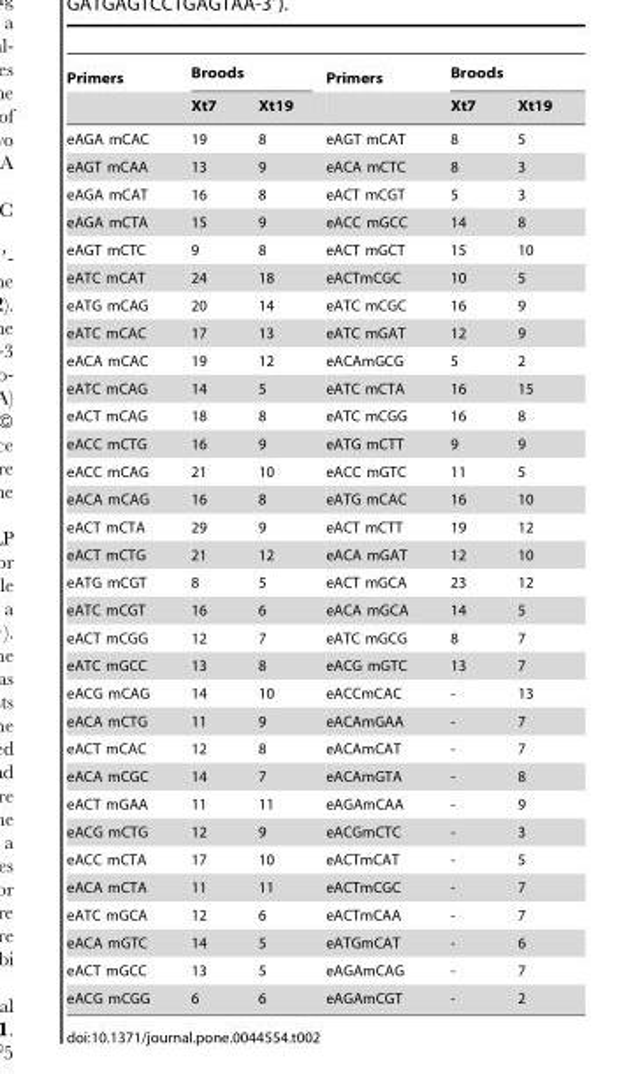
<table><thead><tr><td rowspan="2">Primers</td><td colspan="2">Broods</td><td rowspan="2">Primers</td><td colspan="2">Broods</td></tr><tr><td>Xt7</td><td>Xt19</td><td>Xt7</td><td>Xt19</td></tr></thead><tbody><tr><td>eAGA mCAC</td><td>19</td><td>8</td><td>eAGT mCAT</td><td>8</td><td>5</td></tr><tr><td>eAGT mCAA</td><td>13</td><td>9</td><td>eACA mCTC</td><td>8</td><td>3</td></tr><tr><td>eAGA mCAT</td><td>16</td><td>8</td><td>eACT mCGT</td><td>5</td><td>3</td></tr><tr><td>eAGA mCTA</td><td>15</td><td>9</td><td>eACC mGCC</td><td>14</td><td>8</td></tr><tr><td>eAGT mCTC</td><td>9</td><td>8</td><td>eACT mGCT</td><td>15</td><td>10</td></tr><tr><td>eATC mCAT</td><td>24</td><td>18</td><td>eACTmCGC</td><td>10</td><td>5</td></tr><tr><td>eATG mCAG</td><td>20</td><td>14</td><td>eATC mCGC</td><td>16</td><td>9</td></tr><tr><td>eATC mCAC</td><td>17</td><td>13</td><td>eATC mGAT</td><td>12</td><td>9</td></tr><tr><td>eACA mCAC</td><td>19</td><td>12</td><td>eACAmGCG</td><td>5</td><td>2</td></tr><tr><td>eATC mCAG</td><td>14</td><td>5</td><td>eATC mCTA</td><td>16</td><td>15</td></tr><tr><td>eACT mCAG</td><td>18</td><td>8</td><td>eATC mCGG</td><td>16</td><td>8</td></tr><tr><td>eACC mCTG</td><td>16</td><td>9</td><td>eATG mCTT</td><td>9</td><td>9</td></tr><tr><td>eACC mCAG</td><td>21</td><td>10</td><td>eACC mGTC</td><td>11</td><td>5</td></tr><tr><td>eACA mCAG</td><td>16</td><td>8</td><td>eATG mCAC</td><td>16</td><td>10</td></tr><tr><td>eACT mCTA</td><td>29</td><td>9</td><td>eACT mCTT</td><td>19</td><td>12</td></tr><tr><td>eACT mCTG</td><td>21</td><td>12</td><td>eACA mGAT</td><td>12</td><td>10</td></tr><tr><td>eATG mCGT</td><td>8</td><td>5</td><td>eACT mGCA</td><td>23</td><td>12</td></tr><tr><td>eATC mCGT</td><td>16</td><td>6</td><td>eACA mGCA</td><td>14</td><td>5</td></tr><tr><td>eACT mCGG</td><td>12</td><td>7</td><td>eATC mGCG</td><td>8</td><td>7</td></tr><tr><td>eATC mGCC</td><td>13</td><td>8</td><td>eACG mGTC</td><td>13</td><td>7</td></tr><tr><td>eACG mCAG</td><td>14</td><td>10</td><td>eACCmCAC</td><td>-</td><td>13</td></tr><tr><td>eACA mCTG</td><td>11</td><td>9</td><td>eACAmGAA</td><td>-</td><td>7</td></tr><tr><td>eACT mCAC</td><td>12</td><td>8</td><td>eACAmCAT</td><td>-</td><td>7</td></tr><tr><td>eACA mCGC</td><td>14</td><td>7</td><td>eACAmGTA</td><td>-</td><td>8</td></tr><tr><td>eACT mGAA</td><td>11</td><td>11</td><td>eAGAmCAA</td><td>-</td><td>9</td></tr><tr><td>eACG mCTG</td><td>12</td><td>9</td><td>eACGmCTC</td><td>-</td><td>3</td></tr><tr><td>eACC mCTA</td><td>17</td><td>10</td><td>eACTmCAT</td><td>-</td><td>5</td></tr><tr><td>eACA mCTA</td><td>11</td><td>11</td><td>eACTmCGC</td><td>-</td><td>7</td></tr><tr><td>eATC mGCA</td><td>12</td><td>6</td><td>eACTmCAA</td><td>-</td><td>7</td></tr><tr><td>eACA mGTC</td><td>14</td><td>5</td><td>eATGmCAT</td><td>-</td><td>6</td></tr><tr><td>eACT mGCC</td><td>13</td><td>5</td><td>eAGAmCAG</td><td>-</td><td>7</td></tr><tr><td>eACG mCGG</td><td>6</td><td>6</td><td>eAGAmCGT</td><td>-</td><td>2</td></tr></tbody></table>